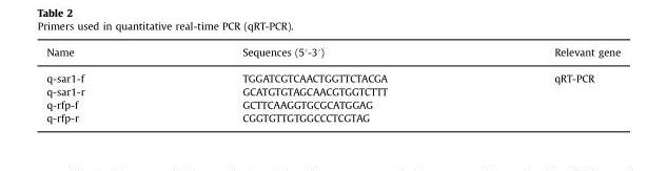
<table><thead><tr><td>Name</td><td>Sequences (5′-3′)</td><td>Relevant gene</td></tr></thead><tbody><tr><td>q-sar1-f</td><td>TGGATCGTCAACTGGTTCTACGA</td><td rowspan="4">qRT-PCR</td></tr><tr><td>q-sar1-r</td><td>GCATGTGTAGCAACGTGGTCTTT</td></tr><tr><td>q-rfp-f</td><td>GCTTCAAGGTGCGCATGGAG</td></tr><tr><td>q-rfp-r</td><td>CGGTGTTGTGGCCCTCGTAG</td></tr></tbody></table>